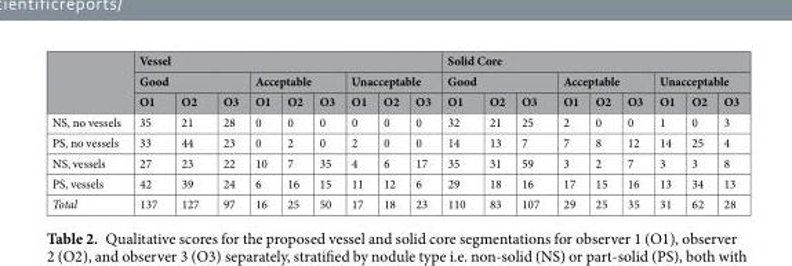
<table><thead><tr><td rowspan="3"></td><td colspan="9">Vessel</td><td colspan="9">Solid Core</td></tr><tr><td colspan="3">Good</td><td colspan="3">Acceptable</td><td colspan="3">Unacceptable</td><td colspan="3">Good</td><td colspan="3">Acceptable</td><td colspan="3">Unacceptable</td></tr><tr><td>O1</td><td>O2</td><td>O3</td><td>O1</td><td>O2</td><td>O3</td><td>O1</td><td>O2</td><td>O3</td><td>O1</td><td>O2</td><td>O3</td><td>O1</td><td>O2</td><td>O3</td><td>O1</td><td>O2</td><td>O3</td></tr></thead><tbody><tr><td>NS, no vessels</td><td>35</td><td>21</td><td>28</td><td>0</td><td>0</td><td>0</td><td>0</td><td>0</td><td>0</td><td>32</td><td>21</td><td>25</td><td>2</td><td>0</td><td>0</td><td>1</td><td>0</td><td>3</td></tr><tr><td>PS, no vessels</td><td>33</td><td>44</td><td>23</td><td>0</td><td>2</td><td>0</td><td>2</td><td>0</td><td>0</td><td>14</td><td>13</td><td>7</td><td>7</td><td>8</td><td>12</td><td>14</td><td>25</td><td>4</td></tr><tr><td>NS, vessels</td><td>27</td><td>23</td><td>22</td><td>10</td><td>7</td><td>35</td><td>4</td><td>6</td><td>17</td><td>35</td><td>31</td><td>59</td><td>3</td><td>2</td><td>7</td><td>3</td><td>3</td><td>8</td></tr><tr><td>PS, vessels</td><td>42</td><td>39</td><td>24</td><td>6</td><td>16</td><td>15</td><td>11</td><td>12</td><td>6</td><td>29</td><td>18</td><td>16</td><td>17</td><td>15</td><td>16</td><td>13</td><td>34</td><td>13</td></tr><tr><td>Total</td><td>137</td><td>127</td><td>97</td><td>16</td><td>25</td><td>50</td><td>17</td><td>18</td><td>23</td><td>110</td><td>83</td><td>107</td><td>29</td><td>25</td><td>35</td><td>31</td><td>62</td><td>28</td></tr></tbody></table>